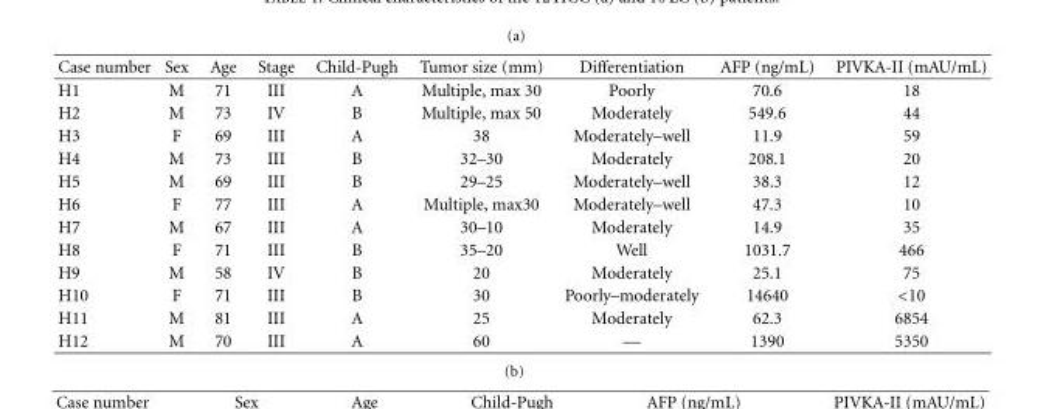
<table><thead><tr><td>Case number</td><td>Sex</td><td>Age</td><td>Stage</td><td>Child-Pugh</td><td>Tumor size (mm)</td><td>Differentiation</td><td>AFP (ng/mL)</td><td>PIVKA-II (mAU/mL)</td></tr></thead><tbody><tr><td>H1</td><td>M</td><td>71</td><td>III</td><td>A</td><td>Multiple, max 30</td><td>Poorly</td><td>70.6</td><td>18</td></tr><tr><td>H2</td><td>M</td><td>73</td><td>IV</td><td>B</td><td>Multiple, max 50</td><td>Moderately</td><td>549.6</td><td>44</td></tr><tr><td>H3</td><td>F</td><td>69</td><td>III</td><td>A</td><td>38</td><td>Moderately–well</td><td>11.9</td><td>59</td></tr><tr><td>H4</td><td>M</td><td>73</td><td>III</td><td>B</td><td>32–30</td><td>Moderately</td><td>208.1</td><td>20</td></tr><tr><td>H5</td><td>M</td><td>69</td><td>III</td><td>B</td><td>29–25</td><td>Moderately–well</td><td>38.3</td><td>12</td></tr><tr><td>H6</td><td>F</td><td>77</td><td>III</td><td>A</td><td>Multiple, max30</td><td>Moderately–well</td><td>47.3</td><td>10</td></tr><tr><td>H7</td><td>M</td><td>67</td><td>III</td><td>A</td><td>30–10</td><td>Moderately</td><td>14.9</td><td>35</td></tr><tr><td>H8</td><td>F</td><td>71</td><td>III</td><td>B</td><td>35–20</td><td>Well</td><td>1031.7</td><td>466</td></tr><tr><td>H9</td><td>M</td><td>58</td><td>IV</td><td>B</td><td>20</td><td>Moderately</td><td>25.1</td><td>75</td></tr><tr><td>H10</td><td>F</td><td>71</td><td>III</td><td>B</td><td>30</td><td>Poorly–moderately</td><td>14640</td><td>&lt;10</td></tr><tr><td>H11</td><td>M</td><td>81</td><td>III</td><td>A</td><td>25</td><td>Moderately</td><td>62.3</td><td>6854</td></tr><tr><td>H12</td><td>M</td><td>70</td><td>III</td><td>A</td><td>60</td><td>—</td><td>1390</td><td>5350</td></tr></tbody></table>